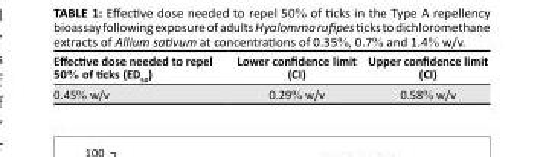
<table><thead><tr><td>Effective dose needed to repel 50% of ticks (ED<sub>50</sub>)</td><td>Lower confidence limit (CI)</td><td>Upper confidence limit (CI)</td></tr></thead><tbody><tr><td>0.45% w/v</td><td>0.29% w/v</td><td>0.58% w/v</td></tr></tbody></table>